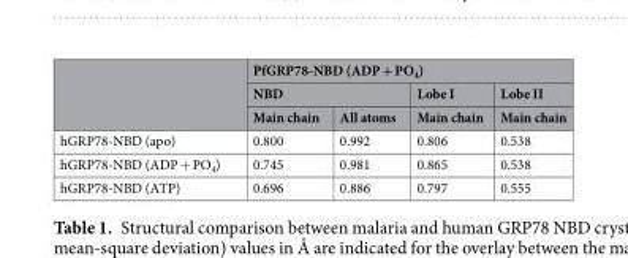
<table><thead><tr><td rowspan="3"></td><td colspan="4">PfGRP78-NBD (ADP + PO<sub>4</sub>)</td></tr><tr><td colspan="2">NBD</td><td rowspan="2">Lobe I Main chain</td><td rowspan="2">Lobe II Main chain</td></tr><tr><td>Main chain</td><td>All atoms</td></tr></thead><tbody><tr><td>hGRP78-NBD (apo)</td><td>0.800</td><td>0.992</td><td>0.806</td><td>0.538</td></tr><tr><td>hGRP78-NBD (ADP + PO<sub>4</sub>)</td><td>0.745</td><td>0.981</td><td>0.865</td><td>0.538</td></tr><tr><td>hGRP78-NBD (ATP)</td><td>0.696</td><td>0.886</td><td>0.797</td><td>0.555</td></tr></tbody></table>